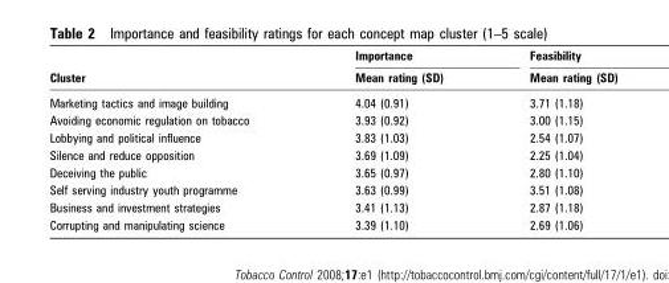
<table><thead><tr><td rowspan="2">Cluster</td><td rowspan="2">Importance Mean rating (SD)</td><td rowspan="2">Feasibility Mean rating (SD)</td></tr><tr></tr></thead><tbody><tr><td>Marketing tactics and image building</td><td>4.04 (0.91)</td><td>3.71 (1.18)</td></tr><tr><td>Avoiding economic regulation on tobacco</td><td>3.93 (0.92)</td><td>3.00 (1.15)</td></tr><tr><td>Lobbying and political influence</td><td>3.83 (1.03)</td><td>2.54 (1.07)</td></tr><tr><td>Silence and reduce opposition</td><td>3.69 (1.09)</td><td>2.25 (1.04)</td></tr><tr><td>Deceiving the public</td><td>3.65 (0.97)</td><td>2.80 (1.10)</td></tr><tr><td>Self serving industry youth programme</td><td>3.63 (0.99)</td><td>3.51 (1.08)</td></tr><tr><td>Business and investment strategies</td><td>3.41 (1.13)</td><td>2.87 (1.18)</td></tr><tr><td>Corrupting and manipulating science</td><td>3.39 (1.10)</td><td>2.69 (1.06)</td></tr></tbody></table>